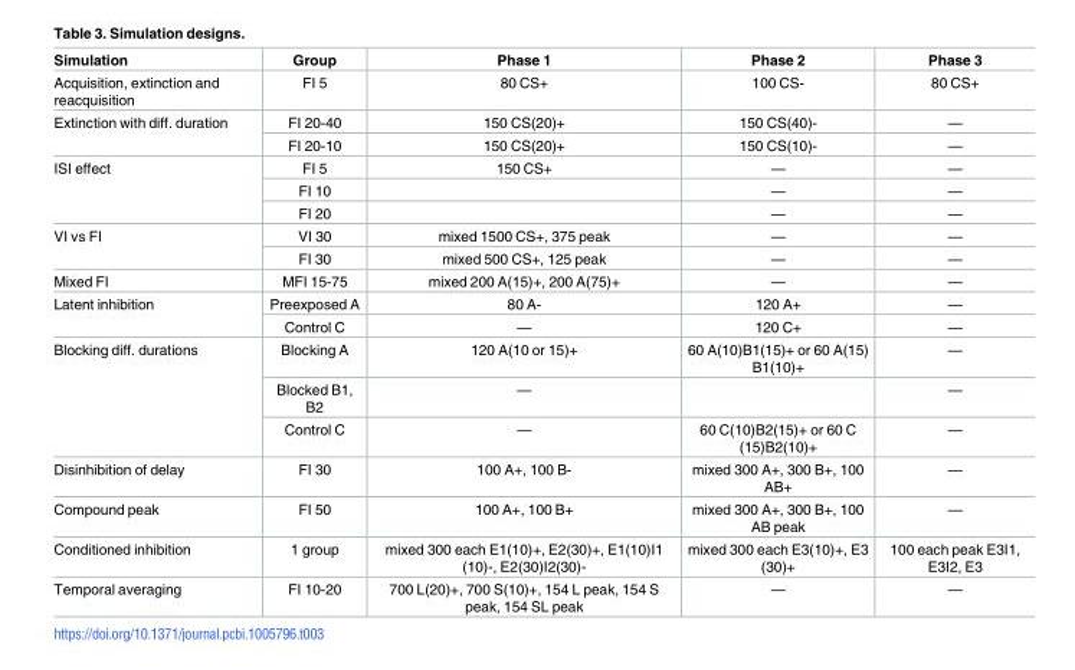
<table><thead><tr><td>Simulation</td><td>Group</td><td>Phase 1</td><td>Phase 2</td><td>Phase 3</td></tr></thead><tbody><tr><td>Acquisition, extinction and reacquisition</td><td>FI 5</td><td>80 CS+</td><td>100 CS-</td><td>80 CS+</td></tr><tr><td rowspan="2">Extinction with diff. duration</td><td>FI 20-40</td><td>150 CS(20)+</td><td>150 CS(40)-</td><td>—</td></tr><tr><td>FI 20-10</td><td>150 CS(20)+</td><td>150 CS(10)-</td><td>—</td></tr><tr><td rowspan="3">ISI effect</td><td>FI 5</td><td>150 CS+</td><td>—</td><td>—</td></tr><tr><td>FI 10</td><td></td><td>—</td><td>—</td></tr><tr><td>FI 20</td><td></td><td>—</td><td>—</td></tr><tr><td rowspan="2">VI vs FI</td><td>VI 30</td><td>mixed 1500 CS+, 375 peak</td><td>—</td><td>—</td></tr><tr><td>FI 30</td><td>mixed 500 CS+, 125 peak</td><td>—</td><td>—</td></tr><tr><td>Mixed FI</td><td>MFI 15-75</td><td>mixed 200 A(15)+, 200 A(75)+</td><td>—</td><td>—</td></tr><tr><td rowspan="2">Latent inhibition</td><td>Preexposed A</td><td>80 A-</td><td>120 A+</td><td>—</td></tr><tr><td>Control C</td><td>—</td><td>120 C+</td><td>—</td></tr><tr><td rowspan="3">Blocking diff. durations</td><td>Blocking A</td><td>120 A(10 or 15)+</td><td>60 A(10)B1(15)+ or 60 A(15) B1(10)+</td><td>—</td></tr><tr><td>Blocked B1, B2</td><td>—</td><td></td><td>—</td></tr><tr><td>Control C</td><td>—</td><td>60 C(10)B2(15)+ or 60 C (15)B2(10)+</td><td>—</td></tr><tr><td>Disinhibition of delay</td><td>FI 30</td><td>100 A+, 100 B-</td><td>mixed 300 A+, 300 B+, 100 AB+</td><td>—</td></tr><tr><td>Compound peak</td><td>FI 50</td><td>100 A+, 100 B+</td><td>mixed 300 A+, 300 B+, 100 AB peak</td><td>—</td></tr><tr><td>Conditioned inhibition</td><td>1 group</td><td>mixed 300 each E1(10)+, E2(30)+, E1(10)I1 (10)-, E2(30)I2(30)-</td><td>mixed 300 each E3(10)+, E3 (30)+</td><td>100 each peak E3I1, E3I2, E3</td></tr><tr><td>Temporal averaging</td><td>FI 10-20</td><td>700 L(20)+, 700 S(10)+, 154 L peak, 154 S peak, 154 SL peak</td><td>—</td><td>—</td></tr></tbody></table>